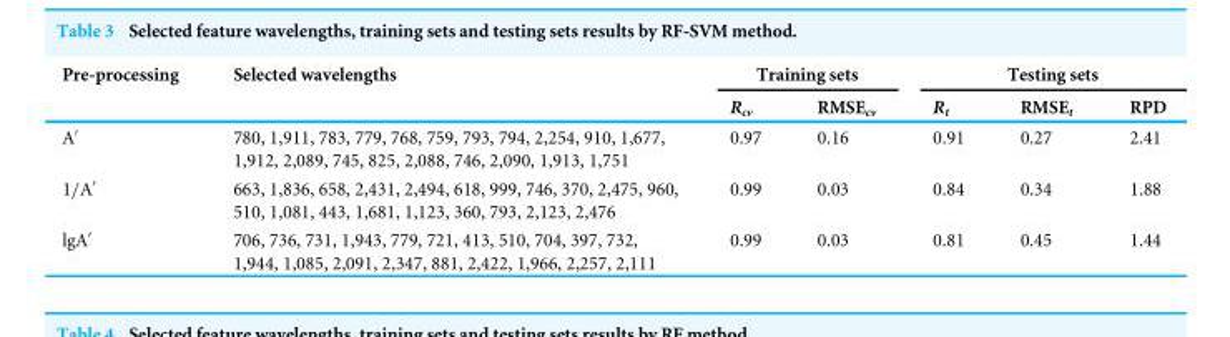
<table><thead><tr><td rowspan="2">Pre-processing</td><td rowspan="2">Selected wavelengths</td><td colspan="2">Training sets</td><td colspan="3">Testing sets</td></tr><tr><td>R<sub>cv</sub></td><td>RMSE<sub>cv</sub></td><td>R<sub>t</sub></td><td>RMSE<sub>t</sub></td><td>RPD</td></tr></thead><tbody><tr><td>A′</td><td>780, 1,911, 783, 779, 768, 759, 793, 794, 2,254, 910, 1,677, 1,912, 2,089, 745, 825, 2,088, 746, 2,090, 1,913, 1,751</td><td>0.97</td><td>0.16</td><td>0.91</td><td>0.27</td><td>2.41</td></tr><tr><td>1/A′</td><td>663, 1,836, 658, 2,431, 2,494, 618, 999, 746, 370, 2,475, 960, 510, 1,081, 443, 1,681, 1,123, 360, 793, 2,123, 2,476</td><td>0.99</td><td>0.03</td><td>0.84</td><td>0.34</td><td>1.88</td></tr><tr><td>lgA′</td><td>706, 736, 731, 1,943, 779, 721, 413, 510, 704, 397, 732, 1,944, 1,085, 2,091, 2,347, 881, 2,422, 1,966, 2,257, 2,111</td><td>0.99</td><td>0.03</td><td>0.81</td><td>0.45</td><td>1.44</td></tr></tbody></table>